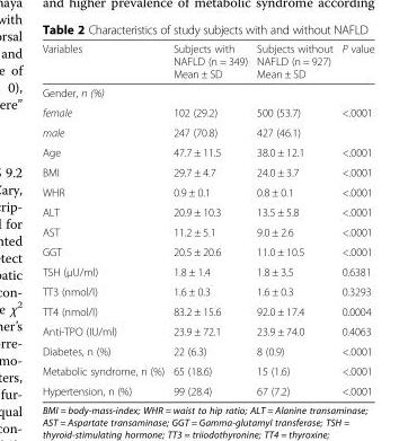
<table><thead><tr><td>Variables</td><td>Subjects with NAFLD (n = 349) Mean ± SD</td><td>Subjects without NAFLD (n = 927) Mean ± SD</td><td>P value</td></tr></thead><tbody><tr><td colspan="4">Gender, n (%)</td></tr><tr><td>female</td><td>102 (29.2)</td><td>500 (53.7)</td><td>&lt;.0001</td></tr><tr><td>male</td><td>247 (70.8)</td><td>427 (46.1)</td><td></td></tr><tr><td>Age</td><td>47.7 ± 11.5</td><td>38.0 ± 12.1</td><td>&lt;.0001</td></tr><tr><td>BMI</td><td>29.7 ± 4.7</td><td>24.0 ± 3.7</td><td>&lt;.0001</td></tr><tr><td>WHR</td><td>0.9 ± 0.1</td><td>0.8 ± 0.1</td><td>&lt;.0001</td></tr><tr><td>ALT</td><td>20.9 ± 10.3</td><td>13.5 ± 5.8</td><td>&lt;.0001</td></tr><tr><td>AST</td><td>11.2 ± 5.1</td><td>9.0 ± 2.6</td><td>&lt;.0001</td></tr><tr><td>GGT</td><td>20.5 ± 20.6</td><td>11.0 ± 10.5</td><td>&lt;.0001</td></tr><tr><td>TSH (μU/ml)</td><td>1.8 ± 1.4</td><td>1.8 ± 3.5</td><td>0.6381</td></tr><tr><td>TT3 (nmol/l)</td><td>1.6 ± 0.3</td><td>1.6 ± 0.3</td><td>0.3293</td></tr><tr><td>TT4 (nmol/l)</td><td>83.2 ± 15.6</td><td>92.0 ± 17.4</td><td>0.0004</td></tr><tr><td>Anti-TPO (IU/ml)</td><td>23.9 ± 72.1</td><td>23.9 ± 74.0</td><td>0.4063</td></tr><tr><td>Diabetes, n (%)</td><td>22 (6.3)</td><td>8 (0.9)</td><td>&lt;.0001</td></tr><tr><td>Metabolic syndrome, n (%)</td><td>65 (18.6)</td><td>15 (1.6)</td><td>&lt;.0001</td></tr><tr><td>Hypertension, n (%)</td><td>99 (28.4)</td><td>67 (7.2)</td><td>&lt;.0001</td></tr></tbody></table>